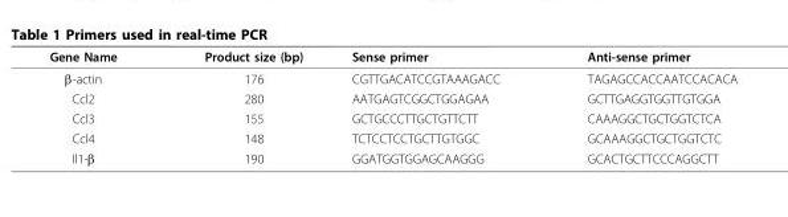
<table><thead><tr><td>Gene Name</td><td>Product size (bp)</td><td>Sense primer</td><td>Anti-sense primer</td></tr></thead><tbody><tr><td>β-actin</td><td>176</td><td>CGTTGACATCCGTAAAGACC</td><td>TAGAGCCACCAATCCACACA</td></tr><tr><td>Ccl2</td><td>280</td><td>AATGAGTCGGCTGGAGAA</td><td>GCTTGAGGTGGTTGTGGA</td></tr><tr><td>Ccl3</td><td>155</td><td>GCTGCCCTTGCTGTTCTT</td><td>CAAAGGCTGCTGGTCTCA</td></tr><tr><td>Ccl4</td><td>148</td><td>TCTCCTCCTGCTTGTGGC</td><td>GCAAAGGCTGCTGGTCTC</td></tr><tr><td>Il1-β</td><td>190</td><td>GGATGGTGGAGCAAGGG</td><td>GCACTGCTTCCCAGGCTT</td></tr></tbody></table>